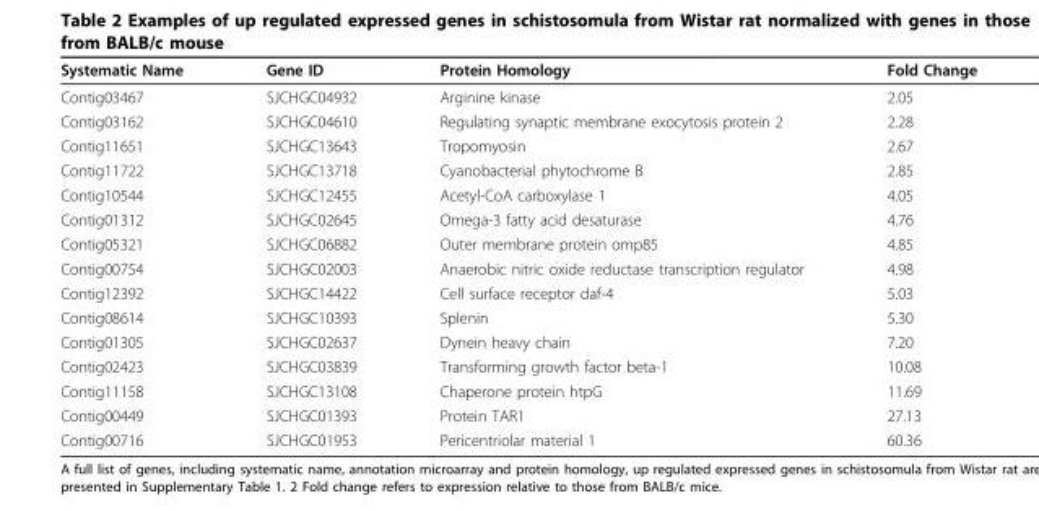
<table><thead><tr><td>Systematic Name</td><td>Gene ID</td><td>Protein Homology</td><td>Fold Change</td></tr></thead><tbody><tr><td>Contig03467</td><td>SJCHGC04932</td><td>Arginine kinase</td><td>2.05</td></tr><tr><td>Contig03162</td><td>SJCHGC04610</td><td>Regulating synaptic membrane exocytosis protein 2</td><td>2.28</td></tr><tr><td>Contig11651</td><td>SJCHGC13643</td><td>Tropomyosin</td><td>2.67</td></tr><tr><td>Contig11722</td><td>SJCHGC13718</td><td>Cyanobacterial phytochrome B</td><td>2.85</td></tr><tr><td>Contig10544</td><td>SJCHGC12455</td><td>Acetyl-CoA carboxylase 1</td><td>4.05</td></tr><tr><td>Contig01312</td><td>SJCHGC02645</td><td>Omega-3 fatty acid desaturase</td><td>4.76</td></tr><tr><td>Contig05321</td><td>SJCHGC06882</td><td>Outer membrane protein omp85</td><td>4.85</td></tr><tr><td>Contig00754</td><td>SJCHGC02003</td><td>Anaerobic nitric oxide reductase transcription regulator</td><td>4.98</td></tr><tr><td>Contig12392</td><td>SJCHGC14422</td><td>Cell surface receptor daf-4</td><td>5.03</td></tr><tr><td>Contig08614</td><td>SJCHGC10393</td><td>Splenin</td><td>5.30</td></tr><tr><td>Contig01305</td><td>SJCHGC02637</td><td>Dynein heavy chain</td><td>7.20</td></tr><tr><td>Contig02423</td><td>SJCHGC03839</td><td>Transforming growth factor beta-1</td><td>10.08</td></tr><tr><td>Contig11158</td><td>SJCHGC13108</td><td>Chaperone protein htpG</td><td>11.69</td></tr><tr><td>Contig00449</td><td>SJCHGC01393</td><td>Protein TAR1</td><td>27.13</td></tr><tr><td>Contig00716</td><td>SJCHGC01953</td><td>Pericentriolar material 1</td><td>60.36</td></tr></tbody></table>